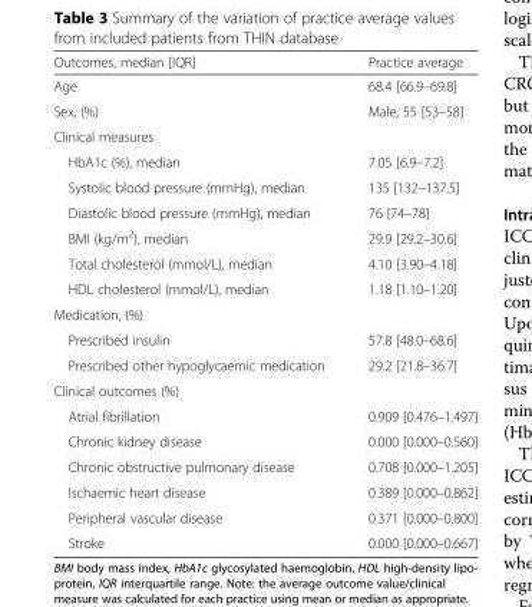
<table><thead><tr><td>Outcomes, median [IQR]</td><td>Practice average</td></tr></thead><tbody><tr><td>Age</td><td>68.4 [66.9–69.8]</td></tr><tr><td>Sex, (%)</td><td>Male, 55 [53–58]</td></tr><tr><td colspan="2">Clinical measures</td></tr><tr><td>HbA1c (%), median</td><td>7.05 [6.9–7.2]</td></tr><tr><td>Systolic blood pressure (mmHg), median</td><td>135 [132–137.5]</td></tr><tr><td>Diastolic blood pressure (mmHg), median</td><td>76 [74–78]</td></tr><tr><td>BMI (kg/m<sup>2</sup>), median</td><td>29.9 [29.2–30.6]</td></tr><tr><td>Total cholesterol (mmol/L), median</td><td>4.10 [3.90–4.18]</td></tr><tr><td>HDL cholesterol (mmol/L), median</td><td>1.18 [1.10–1.20]</td></tr><tr><td colspan="2">Medication, (%)</td></tr><tr><td>Prescribed insulin</td><td>57.8 [48.0–68.6]</td></tr><tr><td>Prescribed other hypoglycaemic medication</td><td>29.2 [21.8–36.7]</td></tr><tr><td colspan="2">Clinical outcomes (%)</td></tr><tr><td>Atrial fibrillation</td><td>0.909 [0.476–1.497]</td></tr><tr><td>Chronic kidney disease</td><td>0.000 [0.000–0.560]</td></tr><tr><td>Chronic obstructive pulmonary disease</td><td>0.708 [0.000–1.205]</td></tr><tr><td>Ischaemic heart disease</td><td>0.389 [0.000–0.862]</td></tr><tr><td>Peripheral vascular disease</td><td>0.371 [0.000–0.800]</td></tr><tr><td>Stroke</td><td>0.000 [0.000–0.667]</td></tr></tbody></table>